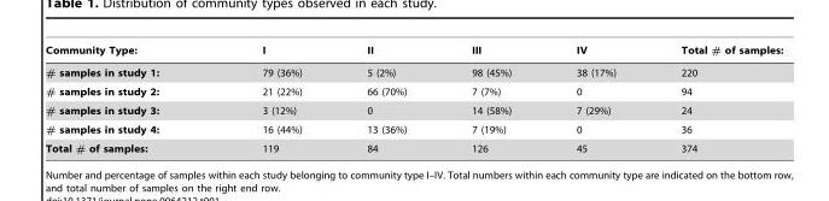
<table><thead><tr><td>Community Type:</td><td>I</td><td>II</td><td>III</td><td>IV</td><td>Total # of samples:</td></tr></thead><tbody><tr><td># samples in study 1:</td><td>79 (36%)</td><td>5 (2%)</td><td>98 (45%)</td><td>38 (17%)</td><td>220</td></tr><tr><td># samples in study 2:</td><td>21 (22%)</td><td>66 (70%)</td><td>7 (7%)</td><td>0</td><td>94</td></tr><tr><td># samples in study 3:</td><td>3 (12%)</td><td>0</td><td>14 (58%)</td><td>7 (29%)</td><td>24</td></tr><tr><td># samples in study 4:</td><td>16 (44%)</td><td>13 (36%)</td><td>7 (19%)</td><td>0</td><td>36</td></tr><tr><td>Total # of samples:</td><td>119</td><td>84</td><td>126</td><td>45</td><td>374</td></tr></tbody></table>